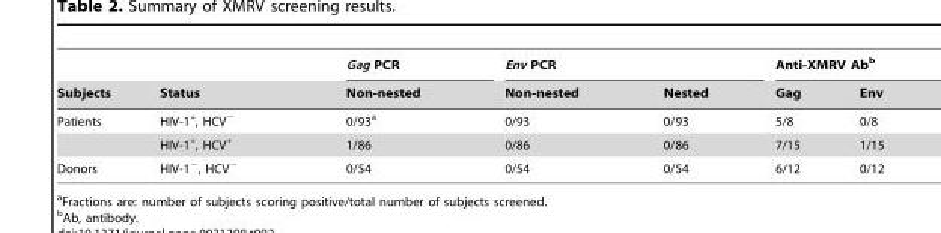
<table><thead><tr><td rowspan="2">Subjects</td><td rowspan="2">Status</td><td rowspan="2">Gag PCR Non-nested</td><td colspan="2">Env PCR</td><td colspan="2">Anti-XMRV Ab<sup>b</sup></td></tr><tr><td>Non-nested</td><td>Nested</td><td>Gag</td><td>Env</td></tr></thead><tbody><tr><td rowspan="2">Patients</td><td>HIV-1<sup>+</sup>, HCV<sup>−</sup></td><td>0/93<sup>a</sup></td><td>0/93</td><td>0/93</td><td>5/8</td><td>0/8</td></tr><tr><td>HIV-1<sup>+</sup>, HCV<sup>+</sup></td><td>1/86</td><td>0/86</td><td>0/86</td><td>7/15</td><td>1/15</td></tr><tr><td>Donors</td><td>HIV-1<sup>−</sup>, HCV<sup>−</sup></td><td>0/54</td><td>0/54</td><td>0/54</td><td>6/12</td><td>0/12</td></tr></tbody></table>